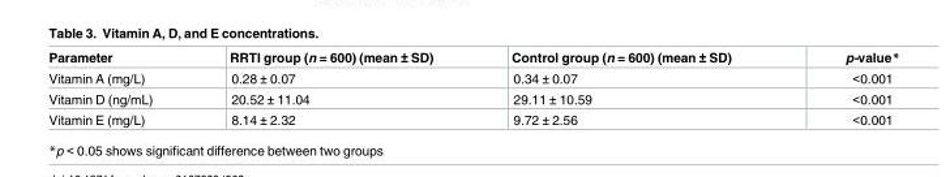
<table><thead><tr><td>Parameter</td><td>RRTI group (n = 600) (mean ± SD)</td><td>Control group (n = 600) (mean ± SD)</td><td>p-value*</td></tr></thead><tbody><tr><td>Vitamin A (mg/L)</td><td>0.28 ± 0.07</td><td>0.34 ± 0.07</td><td>&lt;0.001</td></tr><tr><td>Vitamin D (ng/mL)</td><td>20.52 ± 11.04</td><td>29.11 ± 10.59</td><td>&lt;0.001</td></tr><tr><td>Vitamin E (mg/L)</td><td>8.14 ± 2.32</td><td>9.72 ± 2.56</td><td>&lt;0.001</td></tr></tbody></table>